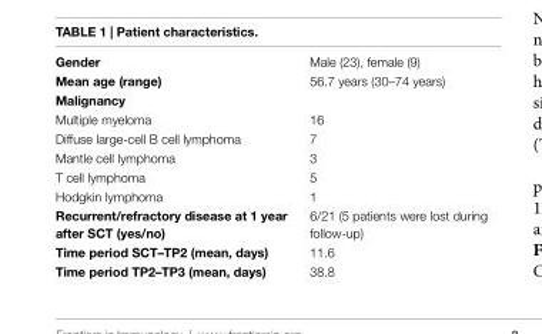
<table><tbody><tr><td>gender</td><td>Male (23), female (9)</td></tr><tr><td>Mean age (range)</td><td>56.7 years (30–74 years)</td></tr><tr><td colspan="2">Malignancy</td></tr><tr><td>Multiple myeloma</td><td>16</td></tr><tr><td>Diffuse large-cell B cell lymphoma</td><td>7</td></tr><tr><td>Mantle cell lymphoma</td><td>3</td></tr><tr><td>T cell lymphoma</td><td>5</td></tr><tr><td>Hodgkin lymphoma</td><td>1</td></tr><tr><td>recurrent/refractory disease at 1 year after scT (yes/no)</td><td>6/21 (5 patients were lost during follow-up)</td></tr><tr><td>Time period scT–TP2 (mean, days)</td><td>11.6</td></tr><tr><td>Time period TP2–TP3 (mean, days)</td><td>38.8</td></tr></tbody></table>